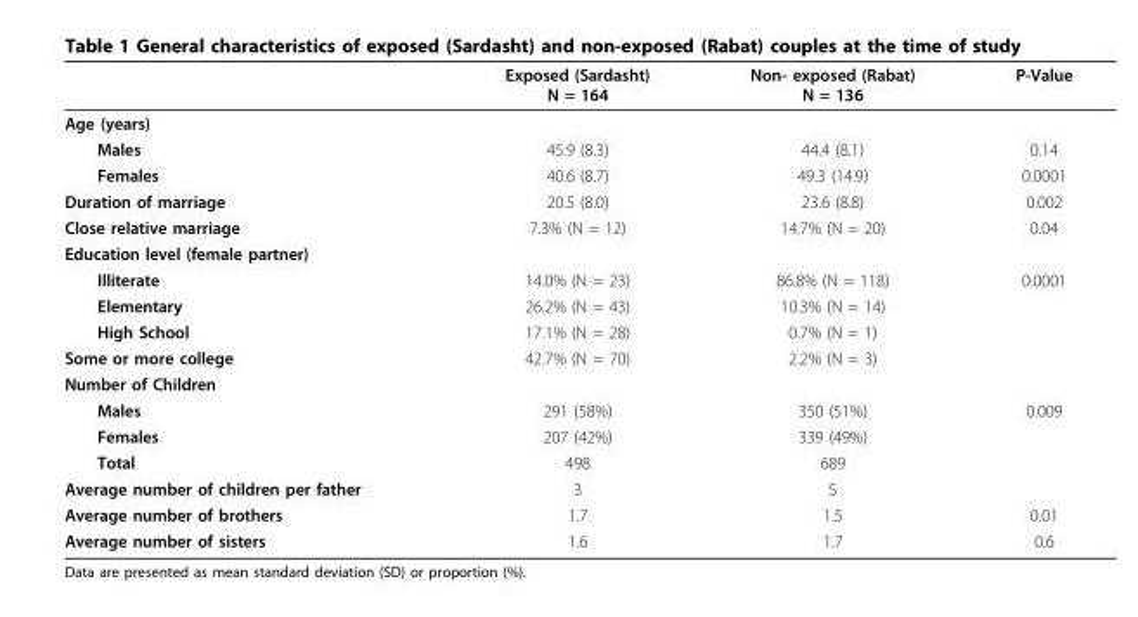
<table><thead><tr><td></td><td>Exposed (Sardasht) N = 164</td><td>Non- exposed (Rabat) N = 136</td><td>P-Value</td></tr></thead><tbody><tr><td colspan="4">Age (years)</td></tr><tr><td>Males</td><td>45.9 (8.3)</td><td>44.4 (8.1)</td><td>0.14</td></tr><tr><td>Females</td><td>40.6 (8.7)</td><td>49.3 (14.9)</td><td>0.0001</td></tr><tr><td>Duration of marriage</td><td>20.5 (8.0)</td><td>23.6 (8.8)</td><td>0.002</td></tr><tr><td>Close relative marriage</td><td>7.3% (N = 12)</td><td>14.7% (N = 20)</td><td>0.04</td></tr><tr><td colspan="4">Education level (female partner)</td></tr><tr><td>Illiterate</td><td>14.0% (N = 23)</td><td>86.8% (N = 118)</td><td>0.0001</td></tr><tr><td>Elementary</td><td>26.2% (N = 43)</td><td>10.3% (N = 14)</td><td></td></tr><tr><td>High School</td><td>17.1% (N = 28)</td><td>0.7% (N = 1)</td><td></td></tr><tr><td>Some or more college</td><td>42.7% (N = 70)</td><td>2.2% (N = 3)</td><td></td></tr><tr><td colspan="4">Number of Children</td></tr><tr><td>Males</td><td>291 (58%)</td><td>350 (51%)</td><td>0.009</td></tr><tr><td>Females</td><td>207 (42%)</td><td>339 (49%)</td><td></td></tr><tr><td>Total</td><td>498</td><td>689</td><td></td></tr><tr><td>Average number of children per father</td><td>3</td><td>5</td><td></td></tr><tr><td>Average number of brothers</td><td>1.7</td><td>1.5</td><td>0.01</td></tr><tr><td>Average number of sisters</td><td>1.6</td><td>1.7</td><td>0.6</td></tr></tbody></table>